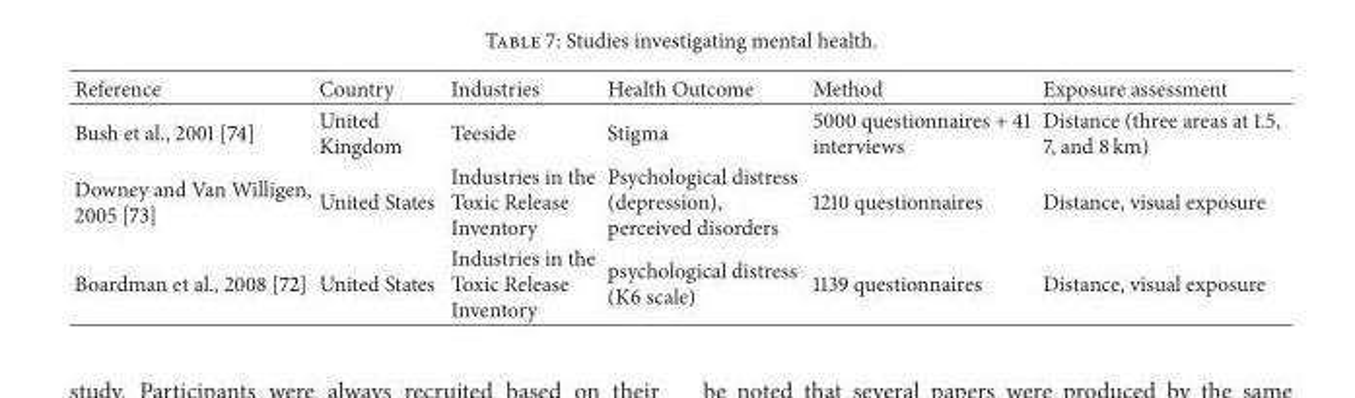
<table><thead><tr><td>Reference</td><td>Country</td><td>Industries</td><td>Health Outcome</td><td>Method</td><td>Exposure assessment</td></tr></thead><tbody><tr><td>Bush et al., 2001 [74]</td><td>United Kingdom</td><td>Teeside</td><td>Stigma</td><td>5000 questionnaires + 41 interviews</td><td>Distance (three areas at 1.5, 7, and 8 km)</td></tr><tr><td>Downey and Van Willigen, 2005 [73]</td><td>United States</td><td>Industries in the Toxic Release Inventory</td><td>Psychological distress (depression), perceived disorders</td><td>1210 questionnaires</td><td>Distance, visual exposure</td></tr><tr><td>Boardman et al., 2008 [72]</td><td>United States</td><td>Industries in the Toxic Release Inventory</td><td>psychological distress (K6 scale)</td><td>1139 questionnaires</td><td>Distance, visual exposure</td></tr></tbody></table>